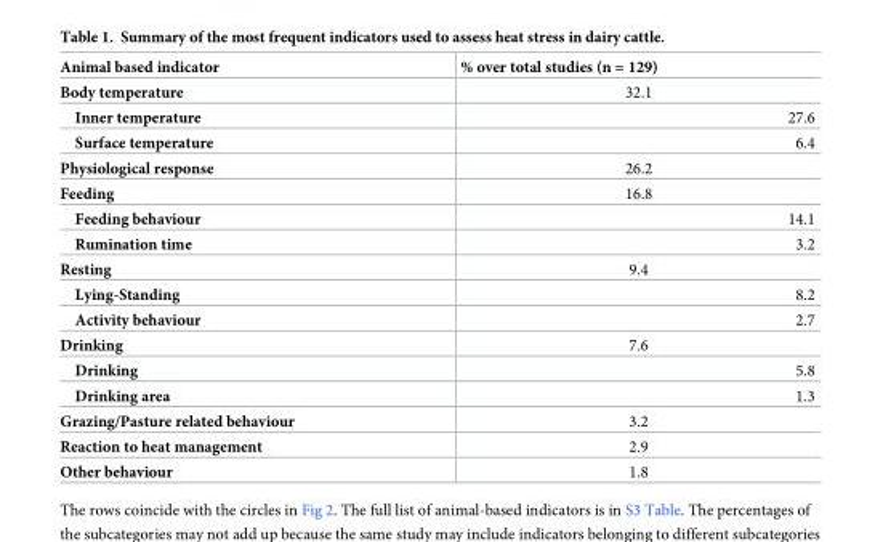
<table><thead><tr><td>Animal based indicator</td><td>% over total studies (n = 129)</td></tr></thead><tbody><tr><td>Body temperature</td><td>32.1</td></tr><tr><td>Inner temperature</td><td>27.6</td></tr><tr><td>Surface temperature</td><td>6.4</td></tr><tr><td>Physiological response</td><td>26.2</td></tr><tr><td>Feeding</td><td>16.8</td></tr><tr><td>Feeding behaviour</td><td>14.1</td></tr><tr><td>Rumination time</td><td>3.2</td></tr><tr><td>Resting</td><td>9.4</td></tr><tr><td>Lying-Standing</td><td>8.2</td></tr><tr><td>Activity behaviour</td><td>2.7</td></tr><tr><td>Drinking</td><td>7.6</td></tr><tr><td>Drinking</td><td>5.8</td></tr><tr><td>Drinking area</td><td>1.3</td></tr><tr><td>Grazing/Pasture related behaviour</td><td>3.2</td></tr><tr><td>Reaction to heat management</td><td>2.9</td></tr><tr><td>Other behaviour</td><td>1.8</td></tr></tbody></table>